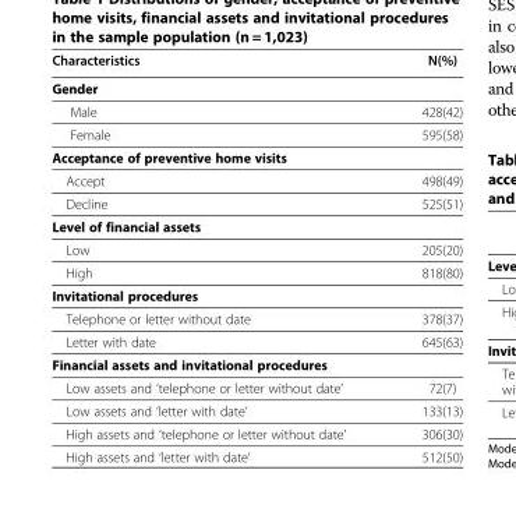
<table><thead><tr><td>Characteristics</td><td>N(%)</td></tr></thead><tbody><tr><td colspan="2">Gender</td></tr><tr><td>Male</td><td>428(42)</td></tr><tr><td>Female</td><td>595(58)</td></tr><tr><td colspan="2">Acceptance of preventive home visits</td></tr><tr><td>Accept</td><td>498(49)</td></tr><tr><td>Decline</td><td>525(51)</td></tr><tr><td colspan="2">Level of financial assets</td></tr><tr><td>Low</td><td>205(20)</td></tr><tr><td>High</td><td>818(80)</td></tr><tr><td colspan="2">Invitational procedures</td></tr><tr><td>Telephone or letter without date</td><td>378(37)</td></tr><tr><td>Letter with date</td><td>645(63)</td></tr><tr><td colspan="2">Financial assets and invitational procedures</td></tr><tr><td>Low assets and ‘telephone or letter without date’</td><td>72(7)</td></tr><tr><td>Low assets and ‘letter with date’</td><td>133(13)</td></tr><tr><td>High assets and ‘telephone or letter without date’</td><td>306(30)</td></tr><tr><td>High assets and ‘letter with date’</td><td>512(50)</td></tr></tbody></table>